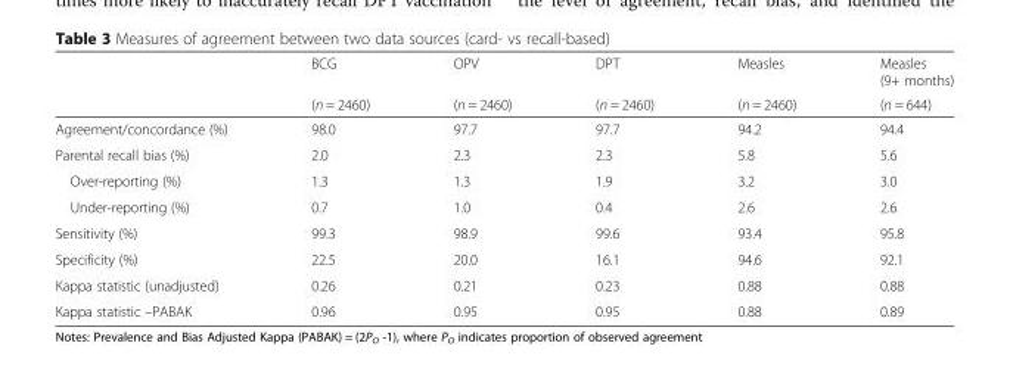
<table><thead><tr><td rowspan="2"></td><td rowspan="2">BCG (n = 2460)</td><td rowspan="2">OPV (n = 2460)</td><td rowspan="2">DPT (n = 2460)</td><td rowspan="2">Measles (n = 2460)</td><td rowspan="2">Measles (9+ months) (n = 644)</td></tr><tr></tr></thead><tbody><tr><td>Agreement/concordance (%)</td><td>98.0</td><td>97.7</td><td>97.7</td><td>94.2</td><td>94.4</td></tr><tr><td>Parental recall bias (%)</td><td>2.0</td><td>2.3</td><td>2.3</td><td>5.8</td><td>5.6</td></tr><tr><td>Over-reporting (%)</td><td>1.3</td><td>1.3</td><td>1.9</td><td>3.2</td><td>3.0</td></tr><tr><td>Under-reporting (%)</td><td>0.7</td><td>1.0</td><td>0.4</td><td>2.6</td><td>2.6</td></tr><tr><td>Sensitivity (%)</td><td>99.3</td><td>98.9</td><td>99.6</td><td>93.4</td><td>95.8</td></tr><tr><td>Specificity (%)</td><td>22.5</td><td>20.0</td><td>16.1</td><td>94.6</td><td>92.1</td></tr><tr><td>Kappa statistic (unadjusted)</td><td>0.26</td><td>0.21</td><td>0.23</td><td>0.88</td><td>0.88</td></tr><tr><td>Kappa statistic –PABAK</td><td>0.96</td><td>0.95</td><td>0.95</td><td>0.88</td><td>0.89</td></tr></tbody></table>